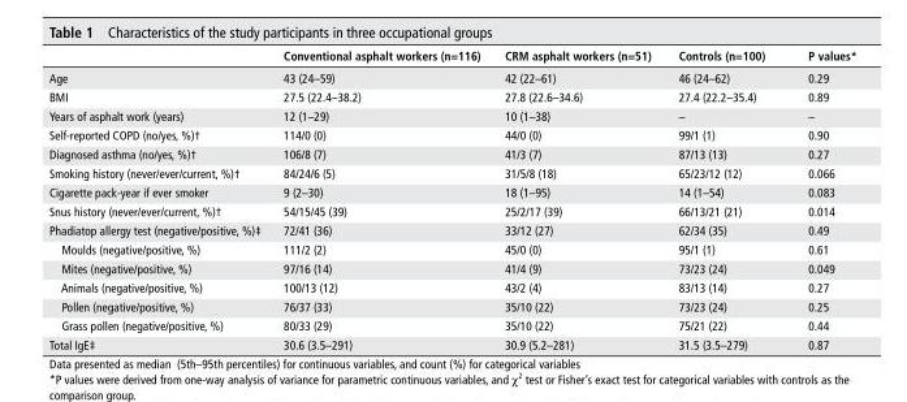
<table><thead><tr><td></td><td>Conventional asphalt workers (n=116)</td><td>CrM asphalt workers (n=51)</td><td>Controls (n=100)</td><td>P values*</td></tr></thead><tbody><tr><td>Age</td><td>43 (24–59)</td><td>42 (22–61)</td><td>46 (24–62)</td><td>0.29</td></tr><tr><td>BMI</td><td>27.5 (22.4–38.2)</td><td>27.8 (22.6–34.6)</td><td>27.4 (22.2–35.4)</td><td>0.89</td></tr><tr><td>Years of asphalt work (years)</td><td>12 (1–29)</td><td>10 (1–38)</td><td>–</td><td>–</td></tr><tr><td>Self-reported COPD (no/yes, %)†</td><td>114/0 (0)</td><td>44/0 (0)</td><td>99/1 (1)</td><td>0.90</td></tr><tr><td>Diagnosed asthma (no/yes, %)†</td><td>106/8 (7)</td><td>41/3 (7)</td><td>87/13 (13)</td><td>0.27</td></tr><tr><td>Smoking history (never/ever/current, %)†</td><td>84/24/6 (5)</td><td>31/5/8 (18)</td><td>65/23/12 (12)</td><td>0.066</td></tr><tr><td>Cigarette pack-year if ever smoker</td><td>9 (2–30)</td><td>18 (1–95)</td><td>14 (1–54)</td><td>0.083</td></tr><tr><td>Snus history (never/ever/current, %)†</td><td>54/15/45 (39)</td><td>25/2/17 (39)</td><td>66/13/21 (21)</td><td>0.014</td></tr><tr><td>Phadiatop allergy test (negative/positive, %)‡</td><td>72/41 (36)</td><td>33/12 (27)</td><td>62/34 (35)</td><td>0.49</td></tr><tr><td>Moulds (negative/positive, %)</td><td>111/2 (2)</td><td>45/0 (0)</td><td>95/1 (1)</td><td>0.61</td></tr><tr><td>Mites (negative/positive, %)</td><td>97/16 (14)</td><td>41/4 (9)</td><td>73/23 (24)</td><td>0.049</td></tr><tr><td>Animals (negative/positive, %)</td><td>100/13 (12)</td><td>43/2 (4)</td><td>83/13 (14)</td><td>0.27</td></tr><tr><td>Pollen (negative/positive, %)</td><td>76/37 (33)</td><td>35/10 (22)</td><td>73/23 (24)</td><td>0.25</td></tr><tr><td>Grass pollen (negative/positive, %)</td><td>80/33 (29)</td><td>35/10 (22)</td><td>75/21 (22)</td><td>0.44</td></tr><tr><td>Total IgE‡</td><td>30.6 (3.5–291)</td><td>30.9 (5.2–281)</td><td>31.5 (3.5–279)</td><td>0.87</td></tr></tbody></table>